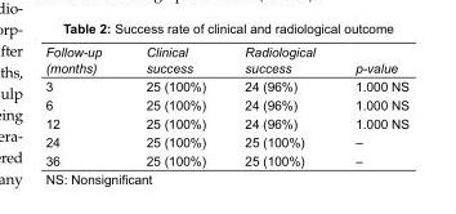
<table><tbody><tr><td>Follow-up (months)</td><td>Clinical success</td><td>Radiological success</td><td>p-value</td></tr><tr><td>3</td><td>25 (100%)</td><td>24 (96%)</td><td>1.000 NS</td></tr><tr><td>6</td><td>25 (100%)</td><td>24 (96%)</td><td>1.000 NS</td></tr><tr><td>12</td><td>25 (100%)</td><td>24 (96%)</td><td>1.000 NS</td></tr><tr><td>24</td><td>25 (100%)</td><td>25 (100%)</td><td>–</td></tr><tr><td>36</td><td>25 (100%)</td><td>25 (100%)</td><td>–</td></tr></tbody></table>